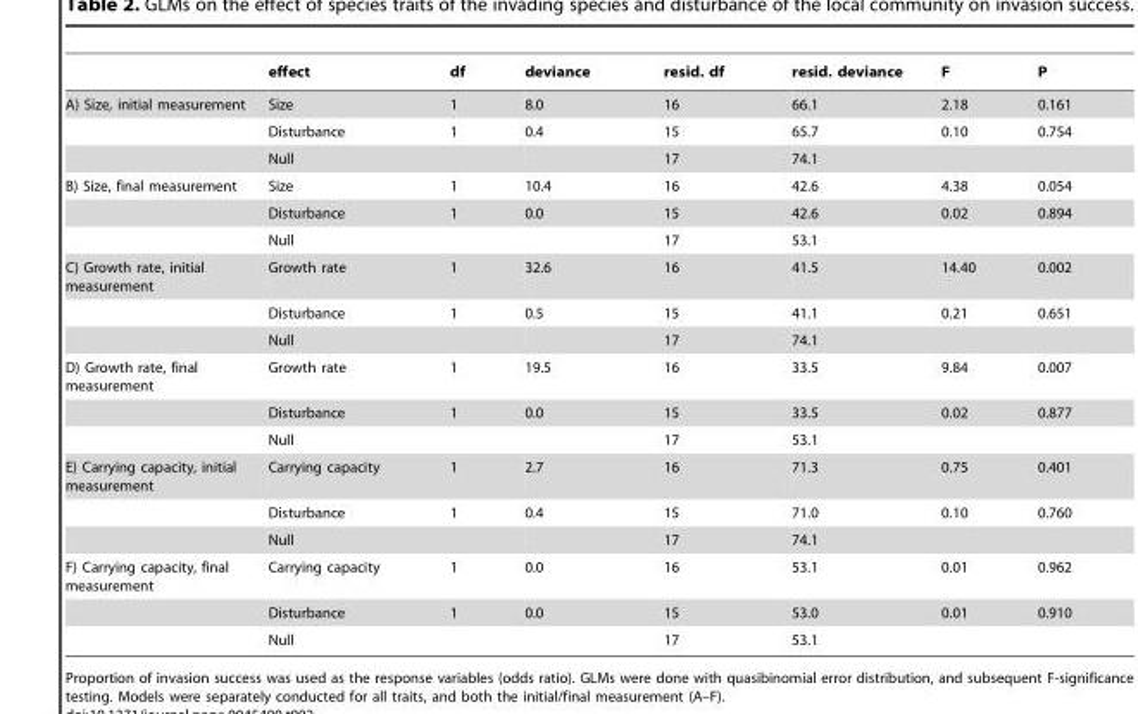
<table><thead><tr><td></td><td>effect</td><td>df</td><td>deviance</td><td>resid. df</td><td>resid. deviance</td><td>F</td><td>P</td></tr></thead><tbody><tr><td rowspan="3">A) Size, initial measurement</td><td>Size</td><td>1</td><td>8.0</td><td>16</td><td>66.1</td><td>2.18</td><td>0.161</td></tr><tr><td>Disturbance</td><td>1</td><td>0.4</td><td>15</td><td>65.7</td><td>0.10</td><td>0.754</td></tr><tr><td>Null</td><td></td><td></td><td>17</td><td>74.1</td><td></td><td></td></tr><tr><td rowspan="3">B) Size, final measurement</td><td>Size</td><td>1</td><td>10.4</td><td>16</td><td>42.6</td><td>4.38</td><td>0.054</td></tr><tr><td>Disturbance</td><td>1</td><td>0.0</td><td>15</td><td>42.6</td><td>0.02</td><td>0.894</td></tr><tr><td>Null</td><td></td><td></td><td>17</td><td>53.1</td><td></td><td></td></tr><tr><td rowspan="3">C) Growth rate, initial measurement</td><td>Growth rate</td><td>1</td><td>32.6</td><td>16</td><td>41.5</td><td>14.40</td><td>0.002</td></tr><tr><td>Disturbance</td><td>1</td><td>0.5</td><td>15</td><td>41.1</td><td>0.21</td><td>0.651</td></tr><tr><td>Null</td><td></td><td></td><td>17</td><td>74.1</td><td></td><td></td></tr><tr><td rowspan="3">D) Growth rate, final measurement</td><td>Growth rate</td><td>1</td><td>19.5</td><td>16</td><td>33.5</td><td>9.84</td><td>0.007</td></tr><tr><td>Disturbance</td><td>1</td><td>0.0</td><td>15</td><td>33.5</td><td>0.02</td><td>0.877</td></tr><tr><td>Null</td><td></td><td></td><td>17</td><td>53.1</td><td></td><td></td></tr><tr><td rowspan="3">E) Carrying capacity, initial measurement</td><td>Carrying capacity</td><td>1</td><td>2.7</td><td>16</td><td>71.3</td><td>0.75</td><td>0.401</td></tr><tr><td>Disturbance</td><td>1</td><td>0.4</td><td>15</td><td>71.0</td><td>0.10</td><td>0.760</td></tr><tr><td>Null</td><td></td><td></td><td>17</td><td>74.1</td><td></td><td></td></tr><tr><td rowspan="3">F) Carrying capacity, final measurement</td><td>Carrying capacity</td><td>1</td><td>0.0</td><td>16</td><td>53.1</td><td>0.01</td><td>0.962</td></tr><tr><td>Disturbance</td><td>1</td><td>0.0</td><td>15</td><td>53.0</td><td>0.01</td><td>0.910</td></tr><tr><td>Null</td><td></td><td></td><td>17</td><td>53.1</td><td></td><td></td></tr></tbody></table>